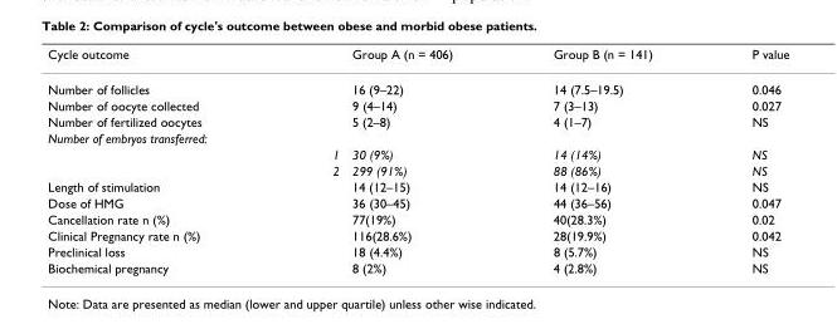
<table><thead><tr><td>Cycle outcome</td><td>Group A (n = 406)</td><td>Group B (n = 141)</td><td>P value</td></tr></thead><tbody><tr><td>Number of follicles</td><td>16 (9–22)</td><td>14 (7.5–19.5)</td><td>0.046</td></tr><tr><td>Number of oocyte collected</td><td>9 (4–14)</td><td>7 (3–13)</td><td>0.027</td></tr><tr><td>Number of fertilized oocytes</td><td>5 (2–8)</td><td>4 (1–7)</td><td>NS</td></tr><tr><td colspan="4">Number of embryos transferred:</td></tr><tr><td>1</td><td>30 (9%)</td><td>14 (14%)</td><td>NS</td></tr><tr><td>2</td><td>299 (91%)</td><td>88 (86%)</td><td>NS</td></tr><tr><td>Length of stimulation</td><td>14 (12–15)</td><td>14 (12–16)</td><td>NS</td></tr><tr><td>Dose of HMG</td><td>36 (30–45)</td><td>44 (36–56)</td><td>0.047</td></tr><tr><td>Cancellation rate n (%)</td><td>77(19%)</td><td>40(28.3%)</td><td>0.02</td></tr><tr><td>Clinical Pregnancy rate n (%)</td><td>116(28.6%)</td><td>28(19.9%)</td><td>0.042</td></tr><tr><td>Preclinical loss</td><td>18 (4.4%)</td><td>8 (5.7%)</td><td>NS</td></tr><tr><td>Biochemical pregnancy</td><td>8 (2%)</td><td>4 (2.8%)</td><td>NS</td></tr></tbody></table>